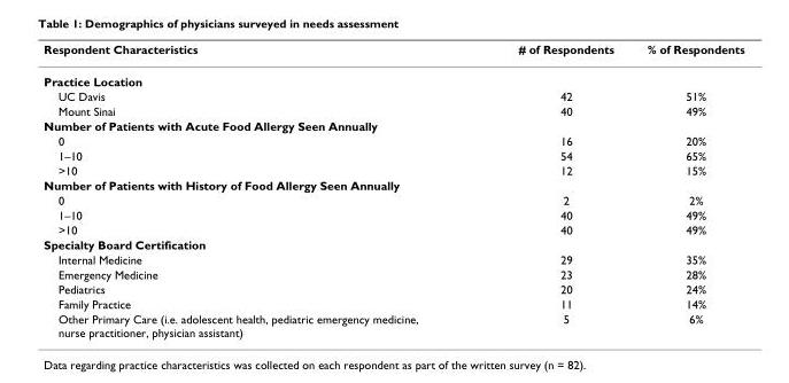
<table><thead><tr><td>Respondent Characteristics</td><td># of Respondents</td><td>% of Respondents</td></tr></thead><tbody><tr><td colspan="3">Practice Location</td></tr><tr><td>UC Davis</td><td>42</td><td>51%</td></tr><tr><td>Mount Sinai</td><td>40</td><td>49%</td></tr><tr><td colspan="3">Number of Patients with Acute Food Allergy Seen Annually</td></tr><tr><td>0</td><td>16</td><td>20%</td></tr><tr><td>1–10</td><td>54</td><td>65%</td></tr><tr><td>&gt;10</td><td>12</td><td>15%</td></tr><tr><td colspan="3">Number of Patients with History of Food Allergy Seen Annually</td></tr><tr><td>0</td><td>2</td><td>2%</td></tr><tr><td>1–10</td><td>40</td><td>49%</td></tr><tr><td>&gt;10</td><td>40</td><td>49%</td></tr><tr><td colspan="3">Specialty Board Certification</td></tr><tr><td>Internal Medicine</td><td>29</td><td>35%</td></tr><tr><td>Emergency Medicine</td><td>23</td><td>28%</td></tr><tr><td>Pediatrics</td><td>20</td><td>24%</td></tr><tr><td>Family Practice</td><td>11</td><td>14%</td></tr><tr><td>Other Primary Care (i.e. adolescent health, pediatric emergency medicine, nurse practitioner, physician assistant)</td><td>5</td><td>6%</td></tr></tbody></table>